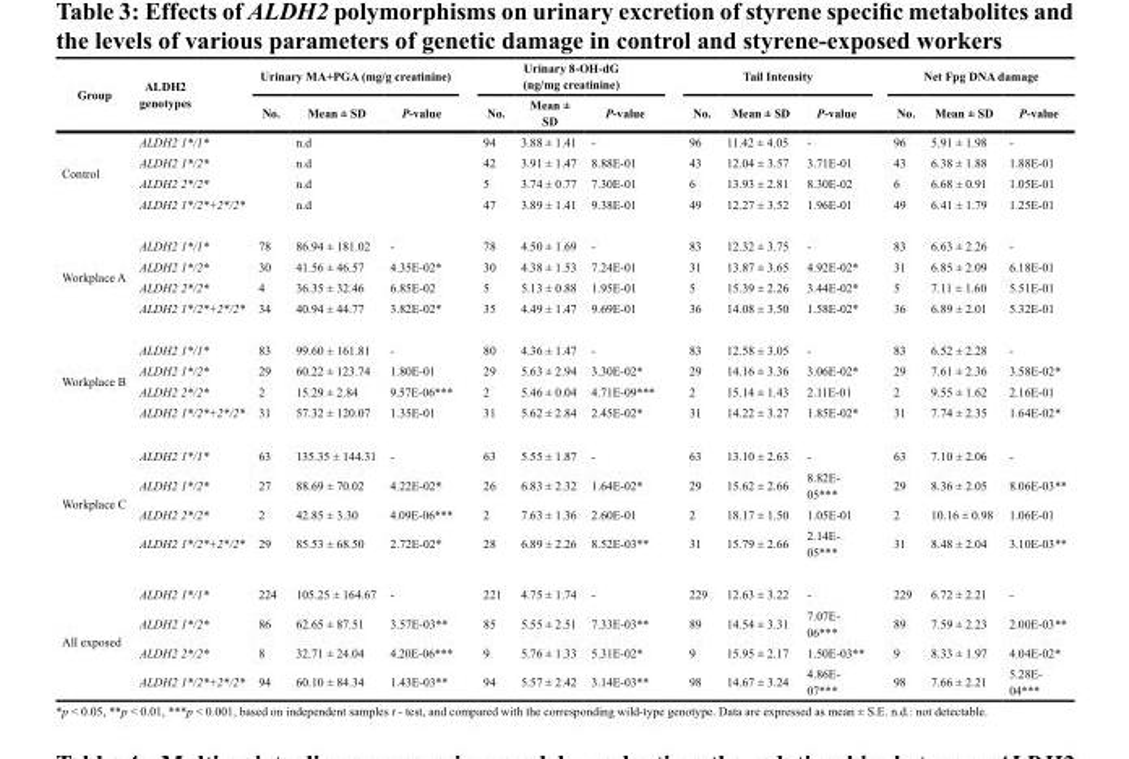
<table><thead><tr><td rowspan="2">Group</td><td rowspan="2">ALDH2 genotypes</td><td colspan="3">Urinary MA+PGA (mg/g creatinine)</td><td colspan="3">Urinary 8-OH-dG (ng/mg creatinine)</td><td colspan="3">Tail Intensity</td><td colspan="3">Net Fpg DNA damage</td></tr><tr><td>No.</td><td>Mean ± SD</td><td>P-value</td><td>No.</td><td>Mean ± SD</td><td>P-value</td><td>No.</td><td>Mean ± SD</td><td>P-value</td><td>No.</td><td>Mean ± SD</td><td>P-value</td></tr></thead><tbody><tr><td rowspan="4">Control</td><td>ALDH2 1*/1*</td><td></td><td>n.d</td><td></td><td>94</td><td>3.88 ± 1.41</td><td>-</td><td>96</td><td>11.42 ± 4.05</td><td>-</td><td>96</td><td>5.91 ± 1.98</td><td>-</td></tr><tr><td>ALDH2 1*/2*</td><td></td><td>n.d</td><td></td><td>42</td><td>3.91 ± 1.47</td><td>8.88E-01</td><td>43</td><td>12.04 ± 3.57</td><td>3.71E-01</td><td>43</td><td>6.38 ± 1.88</td><td>1.88E-01</td></tr><tr><td>ALDH2 2*/2*</td><td></td><td>n.d</td><td></td><td>5</td><td>3.74 ± 0.77</td><td>7.30E-01</td><td>6</td><td>13.93 ± 2.81</td><td>8.30E-02</td><td>6</td><td>6.68 ± 0.91</td><td>1.05E-01</td></tr><tr><td>ALDH2 1*/2*+2*/2*</td><td></td><td>n.d</td><td></td><td>47</td><td>3.89 ± 1.41</td><td>9.38E-01</td><td>49</td><td>12.27 ± 3.52</td><td>1.96E-01</td><td>49</td><td>6.41 ± 1.79</td><td>1.25E-01</td></tr><tr><td rowspan="4">Workplace A</td><td>ALDH2 1*/1*</td><td>78</td><td>86.94 ± 181.02</td><td>-</td><td>78</td><td>4.50 ± 1.69</td><td>-</td><td>83</td><td>12.32 ± 3.75</td><td>-</td><td>83</td><td>6.63 ± 2.26</td><td>-</td></tr><tr><td>ALDH2 1*/2*</td><td>30</td><td>41.56 ± 46.57</td><td>4.35E-02*</td><td>30</td><td>4.38 ± 1.53</td><td>7.24E-01</td><td>31</td><td>13.87 ± 3.65</td><td>4.92E-02*</td><td>31</td><td>6.85 ± 2.09</td><td>6.18E-01</td></tr><tr><td>ALDH2 2*/2*</td><td>4</td><td>36.35 ± 32.46</td><td>6.85E-02</td><td>5</td><td>5.13 ± 0.88</td><td>1.95E-01</td><td>5</td><td>15.39 ± 2.26</td><td>3.44E-02*</td><td>5</td><td>7.11 ± 1.60</td><td>5.51E-01</td></tr><tr><td>ALDH2 1*/2*+2*/2*</td><td>34</td><td>40.94 ± 44.77</td><td>3.82E-02*</td><td>35</td><td>4.49 ± 1.47</td><td>9.69E-01</td><td>36</td><td>14.08 ± 3.50</td><td>1.58E-02*</td><td>36</td><td>6.89 ± 2.01</td><td>5.32E-01</td></tr><tr><td rowspan="4">Workplace B</td><td>ALDH2 1*/1*</td><td>83</td><td>99.60 ± 161.81</td><td>-</td><td>80</td><td>4.36 ± 1.47</td><td>-</td><td>83</td><td>12.58 ± 3.05</td><td>-</td><td>83</td><td>6.52 ± 2.28</td><td>-</td></tr><tr><td>ALDH2 1*/2*</td><td>29</td><td>60.22 ± 123.74</td><td>1.80E-01</td><td>29</td><td>5.63 ± 2.94</td><td>3.30E-02*</td><td>29</td><td>14.16 ± 3.36</td><td>3.06E-02*</td><td>29</td><td>7.61 ± 2.36</td><td>3.58E-02*</td></tr><tr><td>ALDH2 2*/2*</td><td>2</td><td>15.29 ± 2.84</td><td>9.57E-06***</td><td>2</td><td>5.46 ± 0.04</td><td>4.71E-09***</td><td>2</td><td>15.14 ± 1.43</td><td>2.11E-01</td><td>2</td><td>9.55 ± 1.62</td><td>2.16E-01</td></tr><tr><td>ALDH2 1*/2*+2*/2*</td><td>31</td><td>57.32 ± 120.07</td><td>1.35E-01</td><td>31</td><td>5.62 ± 2.84</td><td>2.45E-02*</td><td>31</td><td>14.22 ± 3.27</td><td>1.85E-02*</td><td>31</td><td>7.74 ± 2.35</td><td>1.64E-02*</td></tr><tr><td rowspan="4">Workplace C</td><td>ALDH2 1*/1*</td><td>63</td><td>135.35 ± 144.31</td><td>-</td><td>63</td><td>5.55 ± 1.87</td><td>-</td><td>63</td><td>13.10 ± 2.63</td><td>-</td><td>63</td><td>7.10 ± 2.06</td><td>-</td></tr><tr><td>ALDH2 1*/2*</td><td>27</td><td>88.69 ± 70.02</td><td>4.22E-02*</td><td>26</td><td>6.83 ± 2.32</td><td>1.64E-02*</td><td>29</td><td>15.62 ± 2.66</td><td>8.82E- 05***</td><td>29</td><td>8.36 ± 2.05</td><td>8.06E-03**</td></tr><tr><td>ALDH2 2*/2*</td><td>2</td><td>42.85 ± 3.30</td><td>4.09E-06***</td><td>2</td><td>7.63 ± 1.36</td><td>2.60E-01</td><td>2</td><td>18.17 ± 1.50</td><td>1.05E-01</td><td>2</td><td>10.16 ± 0.98</td><td>1.06E-01</td></tr><tr><td>ALDH2 1*/2*+2*/2*</td><td>29</td><td>85.53 ± 68.50</td><td>2.72E-02*</td><td>28</td><td>6.89 ± 2.26</td><td>8.52E-03**</td><td>31</td><td>15.79 ± 2.66</td><td>2.14E- 05***</td><td>31</td><td>8.48 ± 2.04</td><td>3.10E-03**</td></tr><tr><td rowspan="4">All exposed</td><td>ALDH2 1*/1*</td><td>224</td><td>105.25 ± 164.67</td><td>-</td><td>221</td><td>4.75 ± 1.74</td><td>-</td><td>229</td><td>12.63 ± 3.22</td><td>-</td><td>229</td><td>6.72 ± 2.21</td><td>-</td></tr><tr><td>ALDH2 1*/2*</td><td>86</td><td>62.65 ± 87.51</td><td>3.57E-03**</td><td>85</td><td>5.55 ± 2.51</td><td>7.33E-03**</td><td>89</td><td>14.54 ± 3.31</td><td>7.07E- 06***</td><td>89</td><td>7.59 ± 2.23</td><td>2.00E-03**</td></tr><tr><td>ALDH2 2*/2*</td><td>8</td><td>32.71 ± 24.04</td><td>4.20E-06***</td><td>9</td><td>5.76 ± 1.33</td><td>5.31E-02*</td><td>9</td><td>15.95 ± 2.17</td><td>1.50E-03**</td><td>9</td><td>8.33 ± 1.97</td><td>4.04E-02*</td></tr><tr><td>ALDH2 1*/2*+2*/2*</td><td>94</td><td>60.10 ± 84.34</td><td>1.43E-03**</td><td>94</td><td>5.57 ± 2.42</td><td>3.14E-03**</td><td>98</td><td>14.67 ± 3.24</td><td>4.86E- 07***</td><td>98</td><td>7.66 ± 2.21</td><td>5.28E- 04***</td></tr></tbody></table>